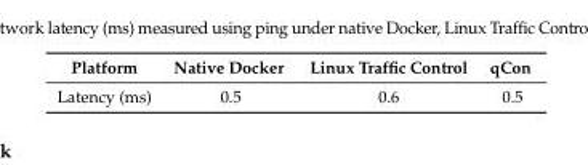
<table><thead><tr><td>Platform</td><td>Native Docker</td><td>Linux Traffic Control</td><td>qCon</td></tr></thead><tbody><tr><td>Latency (ms)</td><td>0.5</td><td>0.6</td><td>0.5</td></tr></tbody></table>